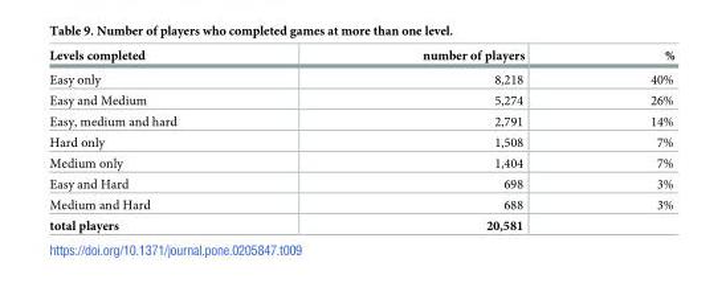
<table><thead><tr><td>Levels completed</td><td>number of players</td><td>%</td></tr></thead><tbody><tr><td>Easy only</td><td>8,218</td><td>40%</td></tr><tr><td>Easy and Medium</td><td>5,274</td><td>26%</td></tr><tr><td>Easy, medium and hard</td><td>2,791</td><td>14%</td></tr><tr><td>Hard only</td><td>1,508</td><td>7%</td></tr><tr><td>Medium only</td><td>1,404</td><td>7%</td></tr><tr><td>Easy and Hard</td><td>698</td><td>3%</td></tr><tr><td>Medium and Hard</td><td>688</td><td>3%</td></tr><tr><td>total players</td><td>20,581</td><td></td></tr></tbody></table>